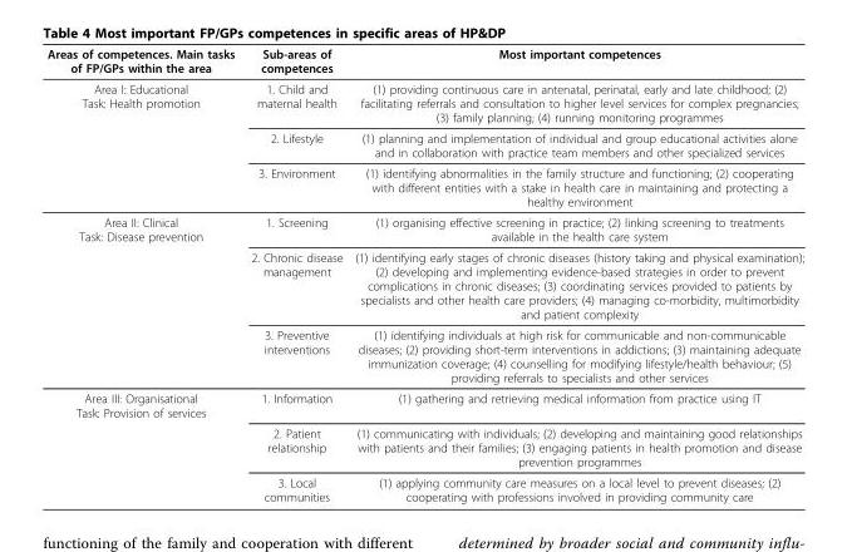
<table><thead><tr><td>Areas of competences. Main tasks of FP/GPs within the area</td><td>Sub-areas of competences</td><td>Most important competences</td></tr></thead><tbody><tr><td rowspan="3">Area I: Educational Task: Health promotion</td><td>1. Child and maternal health</td><td>(1) providing continuous care in antenatal, perinatal, early and late childhood; (2) facilitating referrals and consultation to higher level services for complex pregnancies; (3) family planning; (4) running monitoring programmes</td></tr><tr><td>2. Lifestyle</td><td>(1) planning and implementation of individual and group educational activities alone and in collaboration with practice team members and other specialized services</td></tr><tr><td>3. Environment</td><td>(1) identifying abnormalities in the family structure and functioning; (2) cooperating with different entities with a stake in health care in maintaining and protecting a healthy environment</td></tr><tr><td rowspan="3">Area II: Clinical Task: Disease prevention</td><td>1. Screening</td><td>(1) organising effective screening in practice; (2) linking screening to treatments available in the health care system</td></tr><tr><td>2. Chronic disease management</td><td>(1) identifying early stages of chronic diseases (history taking and physical examination); (2) developing and implementing evidence-based strategies in order to prevent complications in chronic diseases; (3) coordinating services provided to patients by specialists and other health care providers; (4) managing co-morbidity, multimorbidity and patient complexity</td></tr><tr><td>3. Preventive interventions</td><td>(1) identifying individuals at high risk for communicable and non-communicable diseases; (2) providing short-term interventions in addictions; (3) maintaining adequate immunization coverage; (4) counselling for modifying lifestyle/health behaviour; (5) providing referrals to specialists and other services</td></tr><tr><td rowspan="3">Area III: Organisational Task: Provision of services</td><td>1. Information</td><td>(1) gathering and retrieving medical information from practice using IT</td></tr><tr><td>2. Patient relationship</td><td>(1) communicating with individuals; (2) developing and maintaining good relationships with patients and their families; (3) engaging patients in health promotion and disease prevention programmes</td></tr><tr><td>3. Local communities</td><td>(1) applying community care measures on a local level to prevent diseases; (2) cooperating with professions involved in providing community care</td></tr></tbody></table>